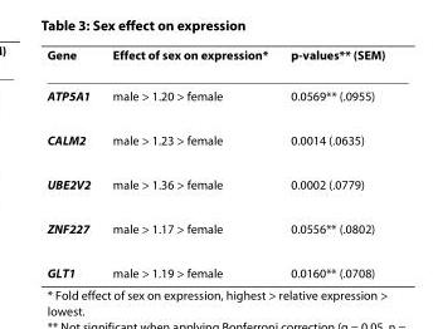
<table><thead><tr><td>Gene</td><td>Effect of sex on expression*</td><td>p-values** (SEM)</td></tr></thead><tbody><tr><td>ATP5A1</td><td>male &gt; 1.20 &gt; female</td><td>0.0569** (.0955)</td></tr><tr><td>CALM2</td><td>male &gt; 1.23 &gt; female</td><td>0.0014 (.0635)</td></tr><tr><td>UBE2V2</td><td>male &gt; 1.36 &gt; female</td><td>0.0002 (.0779)</td></tr><tr><td>ZNF227</td><td>male &gt; 1.17 &gt; female</td><td>0.0556** (.0802)</td></tr><tr><td>GLT1</td><td>male &gt; 1.19 &gt; female</td><td>0.0160** (.0708)</td></tr></tbody></table>